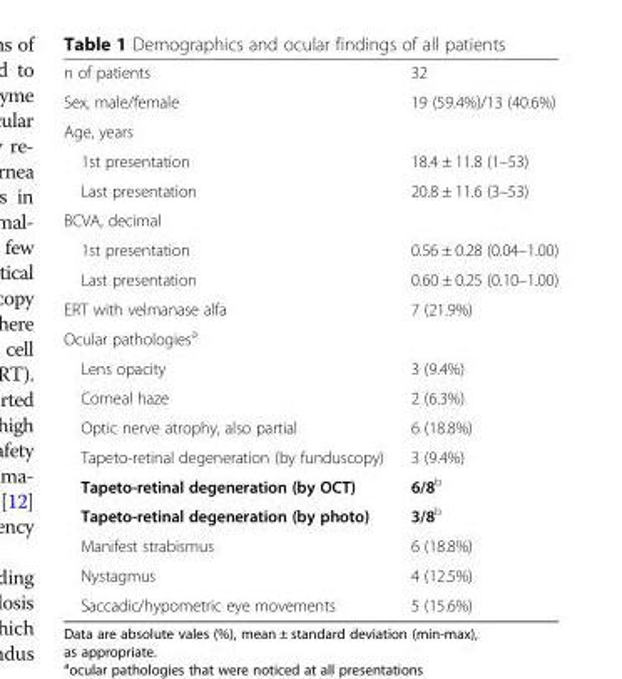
<table><tbody><tr><td>n of patients</td><td>32</td></tr><tr><td>Sex, male/female</td><td>19 (59.4%)/13 (40.6%)</td></tr><tr><td colspan="2">Age, years</td></tr><tr><td>1st presentation</td><td>18.4 ± 11.8 (1–53)</td></tr><tr><td>Last presentation</td><td>20.8 ± 11.6 (3–53)</td></tr><tr><td colspan="2">BCVA, decimal</td></tr><tr><td>1st presentation</td><td>0.56 ± 0.28 (0.04–1.00)</td></tr><tr><td>Last presentation</td><td>0.60 ± 0.25 (0.10–1.00)</td></tr><tr><td>ERT with velmanase alfa</td><td>7 (21.9%)</td></tr><tr><td colspan="2">Ocular pathologies<sup>a</sup></td></tr><tr><td>Lens opacity</td><td>3 (9.4%)</td></tr><tr><td>Corneal haze</td><td>2 (6.3%)</td></tr><tr><td>Optic nerve atrophy, also partial</td><td>6 (18.8%)</td></tr><tr><td>Tapeto-retinal degeneration (by funduscopy)</td><td>3 (9.4%)</td></tr><tr><td>Tapeto-retinal degeneration (by OCT)</td><td>6/8<sup>b</sup></td></tr><tr><td>Tapeto-retinal degeneration (by photo)</td><td>3/8<sup>b</sup></td></tr><tr><td>Manifest strabismus</td><td>6 (18.8%)</td></tr><tr><td>Nystagmus</td><td>4 (12.5%)</td></tr><tr><td>Saccadic/hypometric eye movements</td><td>5 (15.6%)</td></tr></tbody></table>